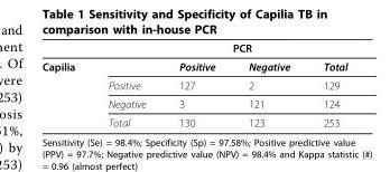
<table><thead><tr><td rowspan="2">Capilia</td><td colspan="4">PCR</td></tr><tr><td></td><td>Positive</td><td>Negative</td><td>Total</td></tr></thead><tbody><tr><td></td><td>Positive</td><td>127</td><td>2</td><td>129</td></tr><tr><td></td><td>Negative</td><td>3</td><td>121</td><td>124</td></tr><tr><td></td><td>Total</td><td>130</td><td>123</td><td>253</td></tr></tbody></table>